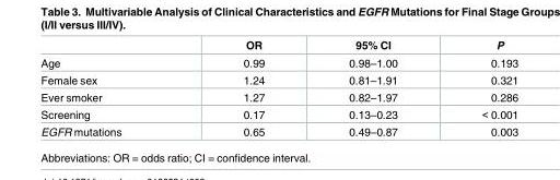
<table><thead><tr><td></td><td>OR</td><td>95% CI</td><td>P</td></tr></thead><tbody><tr><td>Age</td><td>0.99</td><td>0.98–1.00</td><td>0.193</td></tr><tr><td>Female sex</td><td>1.24</td><td>0.81–1.91</td><td>0.321</td></tr><tr><td>Ever smoker</td><td>1.27</td><td>0.82–1.97</td><td>0.286</td></tr><tr><td>Screening</td><td>0.17</td><td>0.13–0.23</td><td>&lt; 0.001</td></tr><tr><td>EGFR mutations</td><td>0.65</td><td>0.49–0.87</td><td>0.003</td></tr></tbody></table>